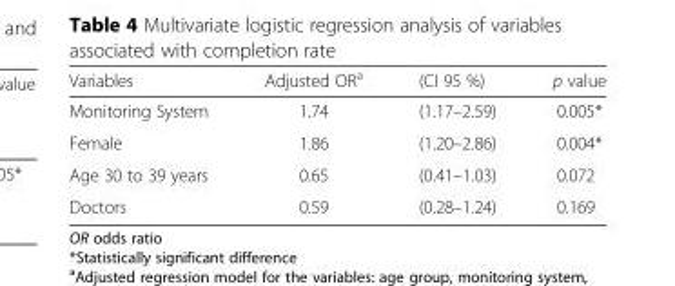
<table><thead><tr><td>Variables</td><td>Adjusted OR<sup>a</sup></td><td>(CI 95 %)</td><td>p value</td></tr></thead><tbody><tr><td>Monitoring System</td><td>1.74</td><td>(1.17–2.59)</td><td>0.005*</td></tr><tr><td>Female</td><td>1.86</td><td>(1.20–2.86)</td><td>0.004*</td></tr><tr><td>Age 30 to 39 years</td><td>0.65</td><td>(0.41–1.03)</td><td>0.072</td></tr><tr><td>Doctors</td><td>0.59</td><td>(0.28–1.24)</td><td>0.169</td></tr></tbody></table>